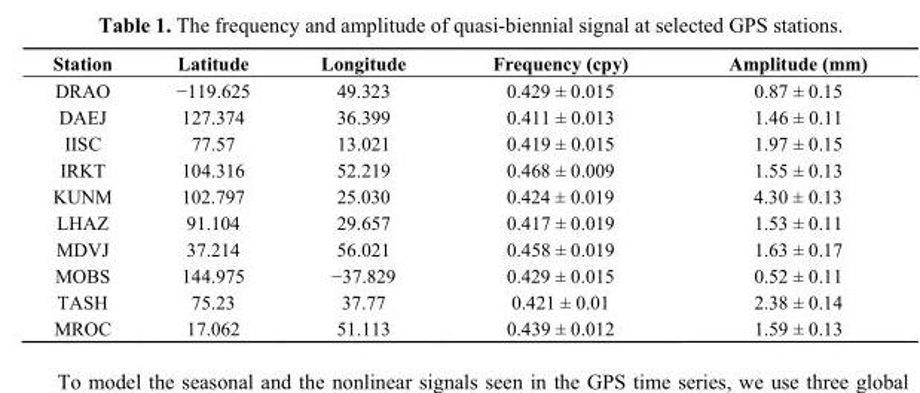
<table><thead><tr><td>Station</td><td>Latitude</td><td>Longitude</td><td>Frequency (cpy)</td><td>Amplitude (mm)</td></tr></thead><tbody><tr><td>DRAO</td><td>−119.625</td><td>49.323</td><td>0.429 ± 0.015</td><td>0.87 ± 0.15</td></tr><tr><td>DAEJ</td><td>127.374</td><td>36.399</td><td>0.411 ± 0.013</td><td>1.46 ± 0.11</td></tr><tr><td>IISC</td><td>77.57</td><td>13.021</td><td>0.419 ± 0.015</td><td>1.97 ± 0.15</td></tr><tr><td>IRKT</td><td>104.316</td><td>52.219</td><td>0.468 ± 0.009</td><td>1.55 ± 0.13</td></tr><tr><td>KUNM</td><td>102.797</td><td>25.030</td><td>0.424 ± 0.019</td><td>4.30 ± 0.13</td></tr><tr><td>LHAZ</td><td>91.104</td><td>29.657</td><td>0.417 ± 0.019</td><td>1.53 ± 0.11</td></tr><tr><td>MDVJ</td><td>37.214</td><td>56.021</td><td>0.458 ± 0.019</td><td>1.63 ± 0.17</td></tr><tr><td>MOBS</td><td>144.975</td><td>−37.829</td><td>0.429 ± 0.015</td><td>0.52 ± 0.11</td></tr><tr><td>TASH</td><td>75.23</td><td>37.77</td><td>0.421 ± 0.01</td><td>2.38 ± 0.14</td></tr><tr><td>MROC</td><td>17.062</td><td>51.113</td><td>0.439 ± 0.012</td><td>1.59 ± 0.13</td></tr></tbody></table>